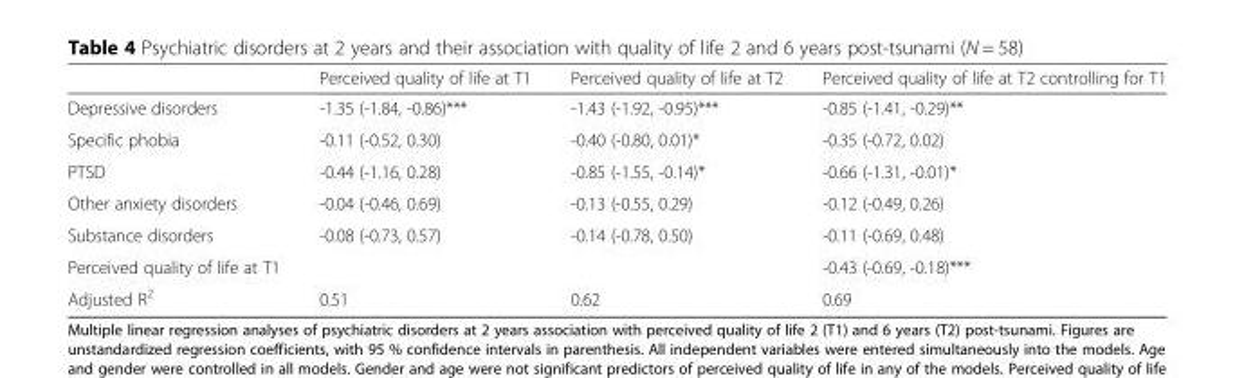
<table><thead><tr><td></td><td>Perceived quality of life at T1</td><td>Perceived quality of life at T2</td><td>Perceived quality of life at T2 controlling for T1</td></tr></thead><tbody><tr><td>Depressive disorders</td><td>-1.35 (-1.84, -0.86)***</td><td>-1.43 (-1.92, -0.95)***</td><td>-0.85 (-1.41, -0.29)**</td></tr><tr><td>Specific phobia</td><td>-0.11 (-0.52, 0.30)</td><td>-0.40 (-0.80, 0.01)*</td><td>-0.35 (-0.72, 0.02)</td></tr><tr><td>PTSD</td><td>-0.44 (-1.16, 0.28)</td><td>-0.85 (-1.55, -0.14)*</td><td>-0.66 (-1.31, -0.01)*</td></tr><tr><td>Other anxiety disorders</td><td>-0.04 (-0.46, 0.69)</td><td>-0.13 (-0.55, 0.29)</td><td>-0.12 (-0.49, 0.26)</td></tr><tr><td>Substance disorders</td><td>-0.08 (-0.73, 0.57)</td><td>-0.14 (-0.78, 0.50)</td><td>-0.11 (-0.69, 0.48)</td></tr><tr><td>Perceived quality of life at T1</td><td></td><td></td><td>-0.43 (-0.69, -0.18)***</td></tr><tr><td>Adjusted R<sup>2</sup></td><td>0.51</td><td>0.62</td><td>0.69</td></tr></tbody></table>